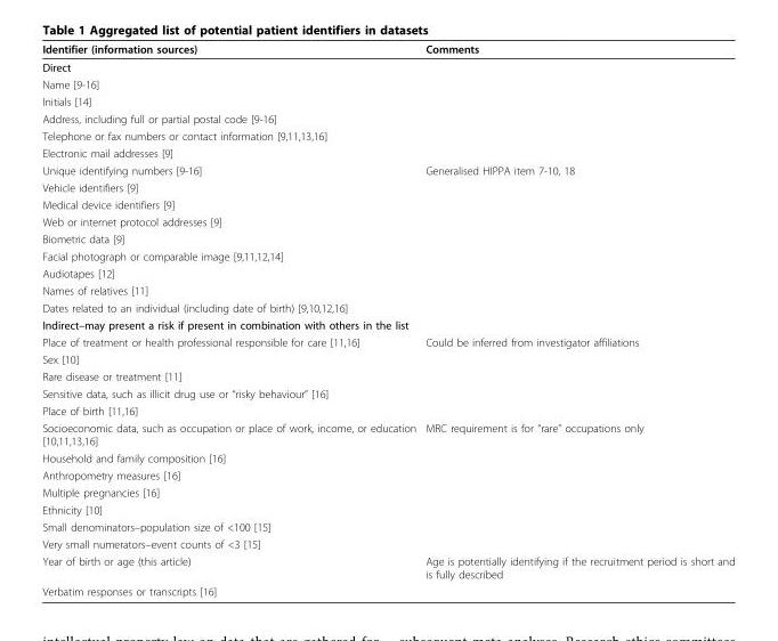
<table><thead><tr><td>Identifier (information sources)</td><td>Comments</td></tr></thead><tbody><tr><td colspan="2">Direct</td></tr><tr><td colspan="2">Name [9-16]</td></tr><tr><td colspan="2">Initials [14]</td></tr><tr><td colspan="2">Address, including full or partial postal code [9-16]</td></tr><tr><td colspan="2">Telephone or fax numbers or contact information [9,11,13,16]</td></tr><tr><td colspan="2">Electronic mail addresses [9]</td></tr><tr><td>Unique identifying numbers [9-16]</td><td>Generalised HIPPA item 7-10, 18</td></tr><tr><td colspan="2">Vehicle identifiers [9]</td></tr><tr><td colspan="2">Medical device identifiers [9]</td></tr><tr><td colspan="2">Web or internet protocol addresses [9]</td></tr><tr><td colspan="2">Biometric data [9]</td></tr><tr><td colspan="2">Facial photograph or comparable image [9,11,12,14]</td></tr><tr><td colspan="2">Audiotapes [12]</td></tr><tr><td colspan="2">Names of relatives [11]</td></tr><tr><td colspan="2">Dates related to an individual (including date of birth) [9,10,12,16]</td></tr><tr><td colspan="2">Indirect–may present a risk if present in combination with others in the list</td></tr><tr><td>Place of treatment or health professional responsible for care [11,16]</td><td>Could be inferred from investigator affiliations</td></tr><tr><td colspan="2">Sex [10]</td></tr><tr><td colspan="2">Rare disease or treatment [11]</td></tr><tr><td colspan="2">Sensitive data, such as illicit drug use or “risky behaviour” [16]</td></tr><tr><td colspan="2">Place of birth [11,16]</td></tr><tr><td>Socioeconomic data, such as occupation or place of work, income, or education [10,11,13,16]</td><td>MRC requirement is for “rare” occupations only</td></tr><tr><td colspan="2">Household and family composition [16]</td></tr><tr><td colspan="2">Anthropometry measures [16]</td></tr><tr><td colspan="2">Multiple pregnancies [16]</td></tr><tr><td colspan="2">Ethnicity [10]</td></tr><tr><td colspan="2">Small denominators–population size of &lt;100 [15]</td></tr><tr><td colspan="2">Very small numerators–event counts of &lt;3 [15]</td></tr><tr><td>Year of birth or age (this article)</td><td>Age is potentially identifying if the recruitment period is short and is fully described</td></tr><tr><td>Verbatim responses or transcripts [16]</td><td></td></tr></tbody></table>